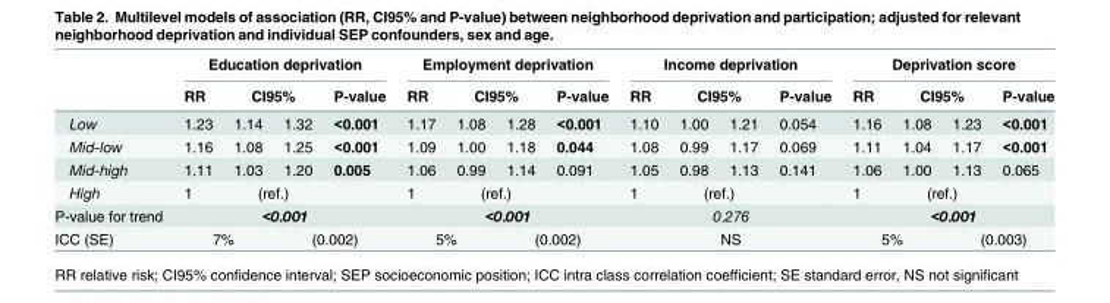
<table><thead><tr><td rowspan="3">Low</td><td colspan="4">Education deprivation</td><td colspan="4">Employment deprivation</td><td colspan="4">Income deprivation</td><td colspan="4">Deprivation score</td></tr><tr><td rowspan="2">RR 1.23</td><td colspan="2">CI95%</td><td rowspan="2">P-value &lt;0.001</td><td rowspan="2">RR 1.17</td><td colspan="2">CI95%</td><td rowspan="2">P-value &lt;0.001</td><td rowspan="2">RR 1.10</td><td colspan="2">CI95%</td><td rowspan="2">P-value 0.054</td><td rowspan="2">RR 1.16</td><td colspan="2">CI95%</td><td rowspan="2">P-value &lt;0.001</td></tr><tr><td>1.14</td><td>1.32</td><td>1.08</td><td>1.28</td><td>1.00</td><td>1.21</td><td>1.08</td><td>1.23</td></tr></thead><tbody><tr><td>Mid-low</td><td>1.16</td><td>1.08</td><td>1.25</td><td>&lt;0.001</td><td>1.09</td><td>1.00</td><td>1.18</td><td>0.044</td><td>1.08</td><td>0.99</td><td>1.17</td><td>0.069</td><td>1.11</td><td>1.04</td><td>1.17</td><td>&lt;0.001</td></tr><tr><td>Mid-high</td><td>1.11</td><td>1.03</td><td>1.20</td><td>0.005</td><td>1.06</td><td>0.99</td><td>1.14</td><td>0.091</td><td>1.05</td><td>0.98</td><td>1.13</td><td>0.141</td><td>1.06</td><td>1.00</td><td>1.13</td><td>0.065</td></tr><tr><td>High</td><td>1</td><td colspan="2">(ref.)</td><td></td><td>1</td><td colspan="2">(ref.)</td><td></td><td>1</td><td colspan="2">(ref.)</td><td></td><td>1</td><td colspan="2">(ref.)</td><td></td></tr><tr><td>P-value for trend</td><td colspan="4">&lt;0.001</td><td colspan="4">&lt;0.001</td><td colspan="4">0.276</td><td colspan="4">&lt;0.001</td></tr><tr><td>ICC (SE)</td><td colspan="2">7%</td><td colspan="2">(0.002)</td><td colspan="2">5%</td><td colspan="2">(0.002)</td><td colspan="4">NS</td><td colspan="2">5%</td><td colspan="2">(0.003)</td></tr></tbody></table>